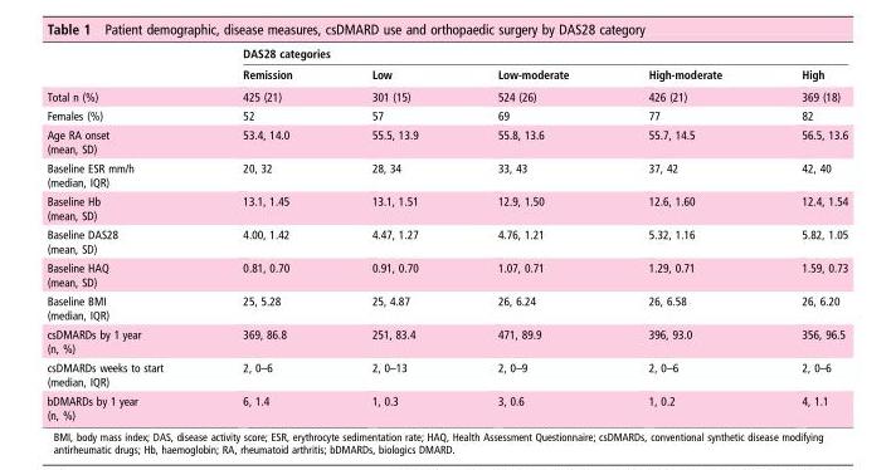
<table><thead><tr><td rowspan="2"></td><td colspan="5">DAS28 categories</td></tr><tr><td>Remission</td><td>Low</td><td>Low-moderate</td><td>High-moderate</td><td>High</td></tr></thead><tbody><tr><td>Total n (%)</td><td>425 (21)</td><td>301 (15)</td><td>524 (26)</td><td>426 (21)</td><td>369 (18)</td></tr><tr><td>Females (%)</td><td>52</td><td>57</td><td>69</td><td>77</td><td>82</td></tr><tr><td>Age RA onset (mean, SD)</td><td>53.4, 14.0</td><td>55.5, 13.9</td><td>55.8, 13.6</td><td>55.7, 14.5</td><td>56.5, 13.6</td></tr><tr><td>Baseline ESR mm/h (median, IQR)</td><td>20, 32</td><td>28, 34</td><td>33, 43</td><td>37, 42</td><td>42, 40</td></tr><tr><td>Baseline Hb (mean, SD)</td><td>13.1, 1.45</td><td>13.1, 1.51</td><td>12.9, 1.50</td><td>12.6, 1.60</td><td>12.4, 1.54</td></tr><tr><td>Baseline DAS28 (mean, SD)</td><td>4.00, 1.42</td><td>4.47, 1.27</td><td>4.76, 1.21</td><td>5.32, 1.16</td><td>5.82, 1.05</td></tr><tr><td>Baseline HAQ (mean, SD)</td><td>0.81, 0.70</td><td>0.91, 0.70</td><td>1.07, 0.71</td><td>1.29, 0.71</td><td>1.59, 0.73</td></tr><tr><td>Baseline BMI (median, IQR)</td><td>25, 5.28</td><td>25, 4.87</td><td>26, 6.24</td><td>26, 6.58</td><td>26, 6.20</td></tr><tr><td>csDMARDs by 1 year (n, %)</td><td>369, 86.8</td><td>251, 83.4</td><td>471, 89.9</td><td>396, 93.0</td><td>356, 96.5</td></tr><tr><td>csDMARDs weeks to start (median, IQR)</td><td>2, 0–6</td><td>2, 0–13</td><td>2, 0–9</td><td>2, 0–6</td><td>2, 0–6</td></tr><tr><td>bDMARDs by 1 year (n, %)</td><td>6, 1.4</td><td>1, 0.3</td><td>3, 0.6</td><td>1, 0.2</td><td>4, 1.1</td></tr></tbody></table>